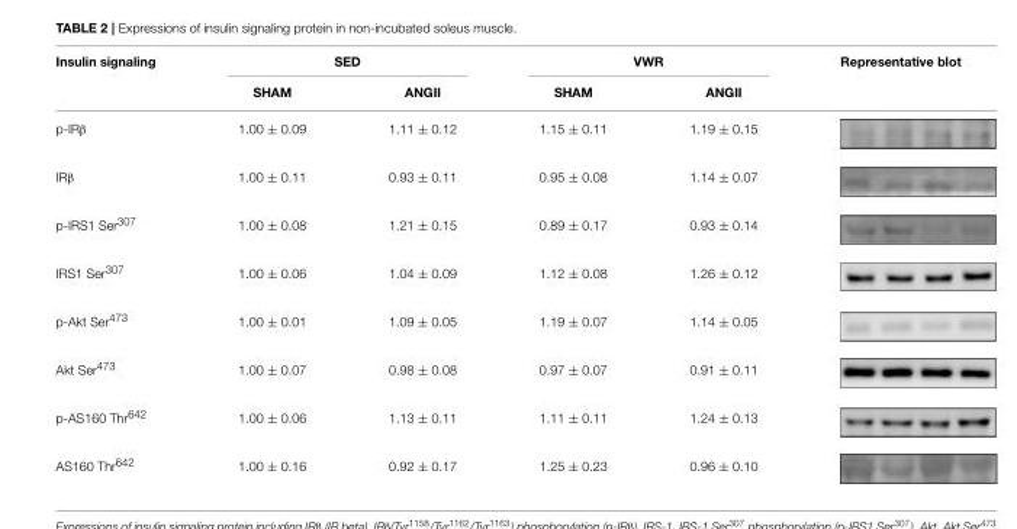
<table><thead><tr><td rowspan="2">Insulin signaling</td><td colspan="2">SED</td><td colspan="2">VWR</td><td rowspan="2">Representative blot</td></tr><tr><td>SHAM</td><td>ANGII</td><td>SHAM</td><td>ANGII</td></tr></thead><tbody><tr><td>p-IRβ</td><td>1.00 ± 0.09</td><td>1.11 ± 0.12</td><td>1.15 ± 0.11</td><td>1.19 ± 0.15</td><td></td></tr><tr><td>IRβ</td><td>1.00 ± 0.11</td><td>0.93 ± 0.11</td><td>0.95 ± 0.08</td><td>1.14 ± 0.07</td><td></td></tr><tr><td>p-IRS1 Ser<sup>307</sup></td><td>1.00 ± 0.08</td><td>1.21 ± 0.15</td><td>0.89 ± 0.17</td><td>0.93 ± 0.14</td><td></td></tr><tr><td>IRS1 Ser<sup>307</sup></td><td>1.00 ± 0.06</td><td>1.04 ± 0.09</td><td>1.12 ± 0.08</td><td>1.26 ± 0.12</td><td></td></tr><tr><td>p-Akt Ser<sup>473</sup></td><td>1.00 ± 0.01</td><td>1.09 ± 0.05</td><td>1.19 ± 0.07</td><td>1.14 ± 0.05</td><td></td></tr><tr><td>Akt Ser<sup>473</sup></td><td>1.00 ± 0.07</td><td>0.98 ± 0.08</td><td>0.97 ± 0.07</td><td>0.91 ± 0.11</td><td></td></tr><tr><td>p-AS160 Thr<sup>642</sup></td><td>1.00 ± 0.06</td><td>1.13 ± 0.11</td><td>1.11 ± 0.11</td><td>1.24 ± 0.13</td><td></td></tr><tr><td>AS160 Thr<sup>642</sup></td><td>1.00 ± 0.16</td><td>0.92 ± 0.17</td><td>1.25 ± 0.23</td><td>0.96 ± 0.10</td><td></td></tr></tbody></table>